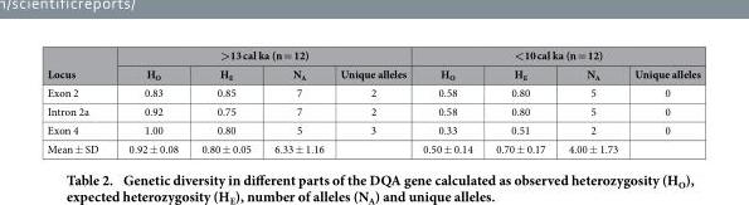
<table><thead><tr><td rowspan="2">Locus</td><td colspan="4">&gt;13 cal ka (n = 12)</td><td colspan="4">&lt;10 cal ka (n = 12)</td></tr><tr><td>H<sub>O</sub></td><td>H<sub>E</sub></td><td>N<sub>A</sub></td><td>Unique alleles</td><td>H<sub>O</sub></td><td>H<sub>E</sub></td><td>N<sub>A</sub></td><td>Unique alleles</td></tr></thead><tbody><tr><td>Exon 2</td><td>0.83</td><td>0.85</td><td>7</td><td>2</td><td>0.58</td><td>0.80</td><td>5</td><td>0</td></tr><tr><td>Intron 2a</td><td>0.92</td><td>0.75</td><td>7</td><td>2</td><td>0.58</td><td>0.80</td><td>5</td><td>0</td></tr><tr><td>Exon 4</td><td>1.00</td><td>0.80</td><td>5</td><td>3</td><td>0.33</td><td>0.51</td><td>2</td><td>0</td></tr><tr><td>Mean ± SD</td><td>0.92 ± 0.08</td><td>0.80 ± 0.05</td><td>6.33 ± 1.16</td><td></td><td>0.50 ± 0.14</td><td>0.70 ± 0.17</td><td>4.00 ± 1.73</td><td></td></tr></tbody></table>